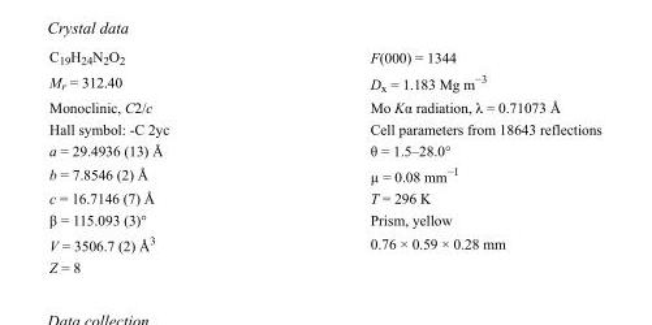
<table><tbody><tr><td>C<sub>19</sub>H<sub>24</sub>N<sub>2</sub>O<sub>2</sub></td><td>F(000) = 1344</td></tr><tr><td>M<sub>r</sub> = 312.40</td><td>D<sub>x</sub> = 1.183 Mg m<sup>−3</sup></td></tr><tr><td>Monoclinic, C2/c</td><td>Mo Kα radiation, λ = 0.71073 Å</td></tr><tr><td>Hall symbol: -C 2yc</td><td>Cell parameters from 18643 reflections</td></tr><tr><td>a = 29.4936 (13) Å</td><td>θ = 1.5–28.0°</td></tr><tr><td>b = 7.8546 (2) Å</td><td>µ = 0.08 mm<sup>−1</sup></td></tr><tr><td>c = 16.7146 (7) Å</td><td>T = 296 K</td></tr><tr><td>β = 115.093 (3)°</td><td>Prism, yellow</td></tr><tr><td>V = 3506.7 (2) Å<sup>3</sup></td><td>0.76 × 0.59 × 0.28 mm</td></tr><tr><td>Z = 8</td><td></td></tr></tbody></table>